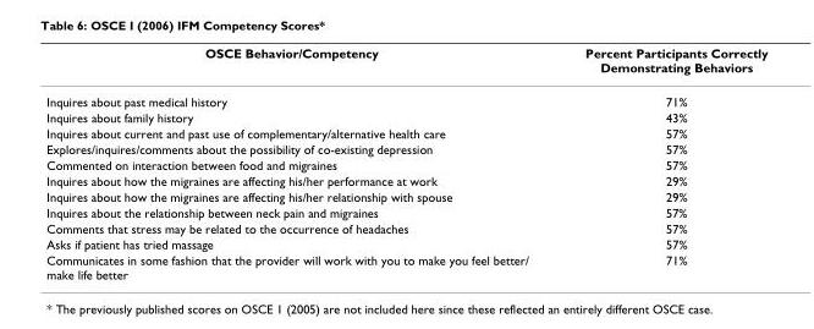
<table><thead><tr><td>OSCE Behavior/Competency</td><td>Percent Participants Correctly Demonstrating Behaviors</td></tr></thead><tbody><tr><td>Inquires about past medical history</td><td>71%</td></tr><tr><td>Inquires about family history</td><td>43%</td></tr><tr><td>Inquires about current and past use of complementary/alternative health care</td><td>57%</td></tr><tr><td>Explores/inquires/comments about the possibility of co-existing depression</td><td>57%</td></tr><tr><td>Commented on interaction between food and migraines</td><td>57%</td></tr><tr><td>Inquires about how the migraines are affecting his/her performance at work</td><td>29%</td></tr><tr><td>Inquires about how the migraines are affecting his/her relationship with spouse</td><td>29%</td></tr><tr><td>Inquires about the relationship between neck pain and migraines</td><td>57%</td></tr><tr><td>Comments that stress may be related to the occurrence of headaches</td><td>57%</td></tr><tr><td>Asks if patient has tried massage</td><td>57%</td></tr><tr><td>Communicates in some fashion that the provider will work with you to make you feel better/ make life better</td><td>71%</td></tr></tbody></table>